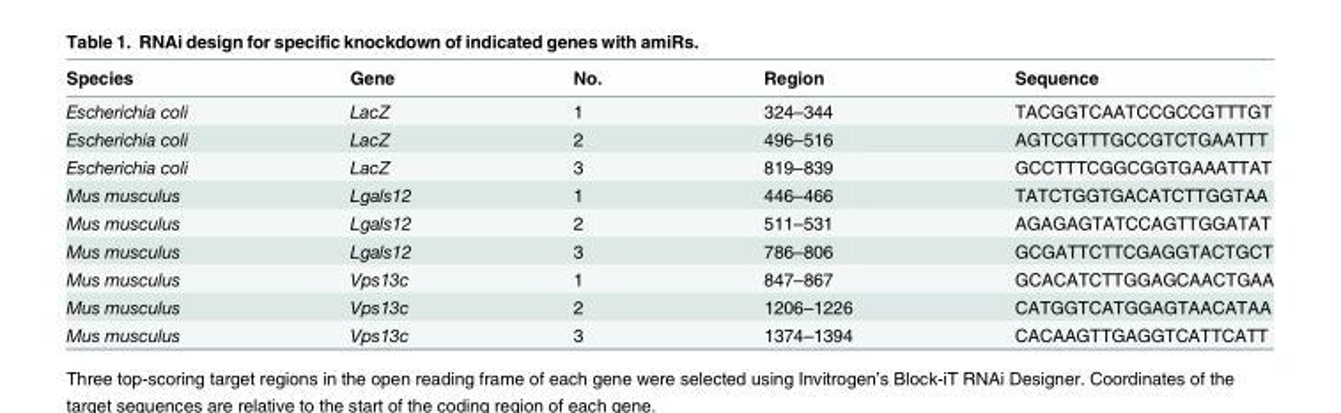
<table><thead><tr><td>Species</td><td>Gene</td><td>No.</td><td>Region</td><td>Sequence</td></tr></thead><tbody><tr><td>Escherichia coli</td><td>LacZ</td><td>1</td><td>324–344</td><td>TACGGTCAATCCGCCGTTTGT</td></tr><tr><td>Escherichia coli</td><td>LacZ</td><td>2</td><td>496–516</td><td>AGTCGTTTGCCGTCTGAATTT</td></tr><tr><td>Escherichia coli</td><td>LacZ</td><td>3</td><td>819–839</td><td>GCCTTTCGGCGGTGAAATTAT</td></tr><tr><td>Mus musculus</td><td>Lgals12</td><td>1</td><td>446–466</td><td>TATCTGGTGACATCTTGGTAA</td></tr><tr><td>Mus musculus</td><td>Lgals12</td><td>2</td><td>511–531</td><td>AGAGAGTATCCAGTTGGATAT</td></tr><tr><td>Mus musculus</td><td>Lgals12</td><td>3</td><td>786–806</td><td>GCGATTCTTCGAGGTACTGCT</td></tr><tr><td>Mus musculus</td><td>Vps13c</td><td>1</td><td>847–867</td><td>GCACATCTTGGAGCAACTGAA</td></tr><tr><td>Mus musculus</td><td>Vps13c</td><td>2</td><td>1206–1226</td><td>CATGGTCATGGAGTAACATAA</td></tr><tr><td>Mus musculus</td><td>Vps13c</td><td>3</td><td>1374–1394</td><td>CACAAGTTGAGGTCATTCATT</td></tr></tbody></table>